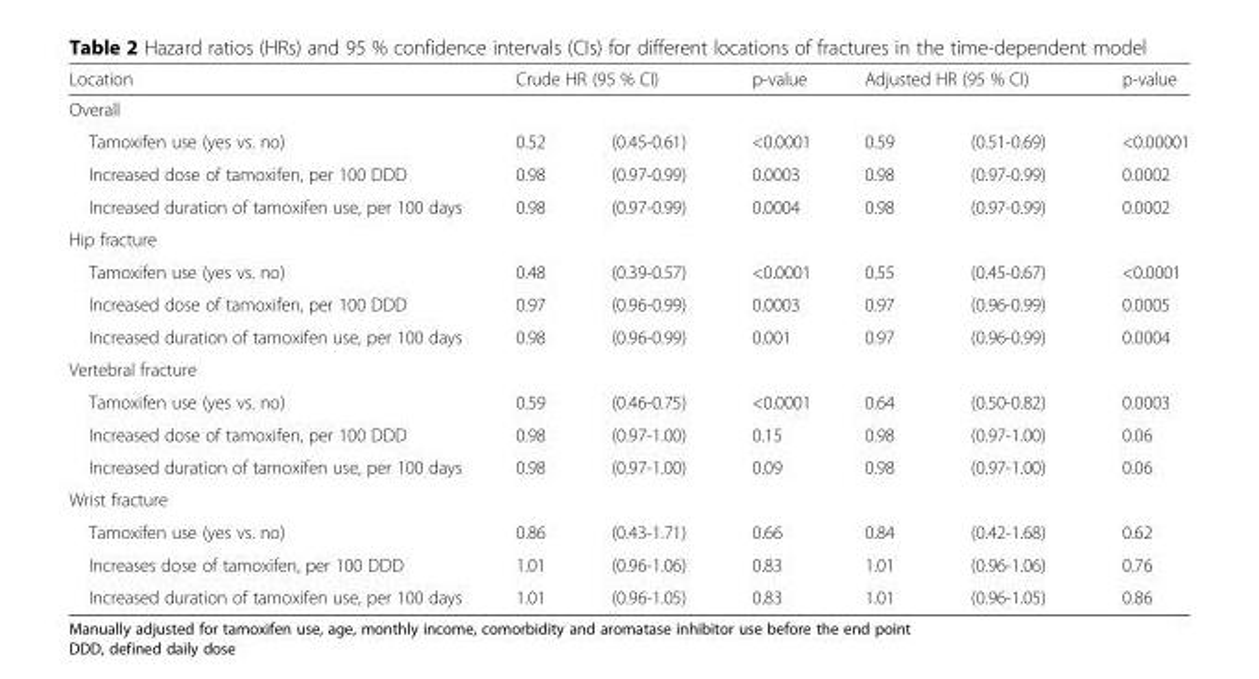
<table><thead><tr><td rowspan="2">Location Overall</td><td colspan="2">Crude HR (95 % CI)</td><td rowspan="2">p-value</td><td colspan="2">Adjusted HR (95 % CI)</td><td rowspan="2">p-value</td></tr><tr><td></td><td></td><td></td><td></td></tr></thead><tbody><tr><td>Tamoxifen use (yes vs. no)</td><td>0.52</td><td>(0.45-0.61)</td><td>&lt;0.0001</td><td>0.59</td><td>(0.51-0.69)</td><td>&lt;0.00001</td></tr><tr><td>Increased dose of tamoxifen, per 100 DDD</td><td>0.98</td><td>(0.97-0.99)</td><td>0.0003</td><td>0.98</td><td>(0.97-0.99)</td><td>0.0002</td></tr><tr><td>Increased duration of tamoxifen use, per 100 days</td><td>0.98</td><td>(0.97-0.99)</td><td>0.0004</td><td>0.98</td><td>(0.97-0.99)</td><td>0.0002</td></tr><tr><td colspan="7">Hip fracture</td></tr><tr><td>Tamoxifen use (yes vs. no)</td><td>0.48</td><td>(0.39-0.57)</td><td>&lt;0.0001</td><td>0.55</td><td>(0.45-0.67)</td><td>&lt;0.0001</td></tr><tr><td>Increased dose of tamoxifen, per 100 DDD</td><td>0.97</td><td>(0.96-0.99)</td><td>0.0003</td><td>0.97</td><td>(0.96-0.99)</td><td>0.0005</td></tr><tr><td>Increased duration of tamoxifen use, per 100 days</td><td>0.98</td><td>(0.96-0.99)</td><td>0.001</td><td>0.97</td><td>(0.96-0.99)</td><td>0.0004</td></tr><tr><td colspan="7">Vertebral fracture</td></tr><tr><td>Tamoxifen use (yes vs. no)</td><td>0.59</td><td>(0.46-0.75)</td><td>&lt;0.0001</td><td>0.64</td><td>(0.50-0.82)</td><td>0.0003</td></tr><tr><td>Increased dose of tamoxifen, per 100 DDD</td><td>0.98</td><td>(0.97-1.00)</td><td>0.15</td><td>0.98</td><td>(0.97-1.00)</td><td>0.06</td></tr><tr><td>Increased duration of tamoxifen use, per 100 days</td><td>0.98</td><td>(0.97-1.00)</td><td>0.09</td><td>0.98</td><td>(0.97-1.00)</td><td>0.06</td></tr><tr><td colspan="7">Wrist fracture</td></tr><tr><td>Tamoxifen use (yes vs. no)</td><td>0.86</td><td>(0.43-1.71)</td><td>0.66</td><td>0.84</td><td>(0.42-1.68)</td><td>0.62</td></tr><tr><td>Increases dose of tamoxifen, per 100 DDD</td><td>1.01</td><td>(0.96-1.06)</td><td>0.83</td><td>1.01</td><td>(0.96-1.06)</td><td>0.76</td></tr><tr><td>Increased duration of tamoxifen use, per 100 days</td><td>1.01</td><td>(0.96-1.05)</td><td>0.83</td><td>1.01</td><td>(0.96-1.05)</td><td>0.86</td></tr></tbody></table>